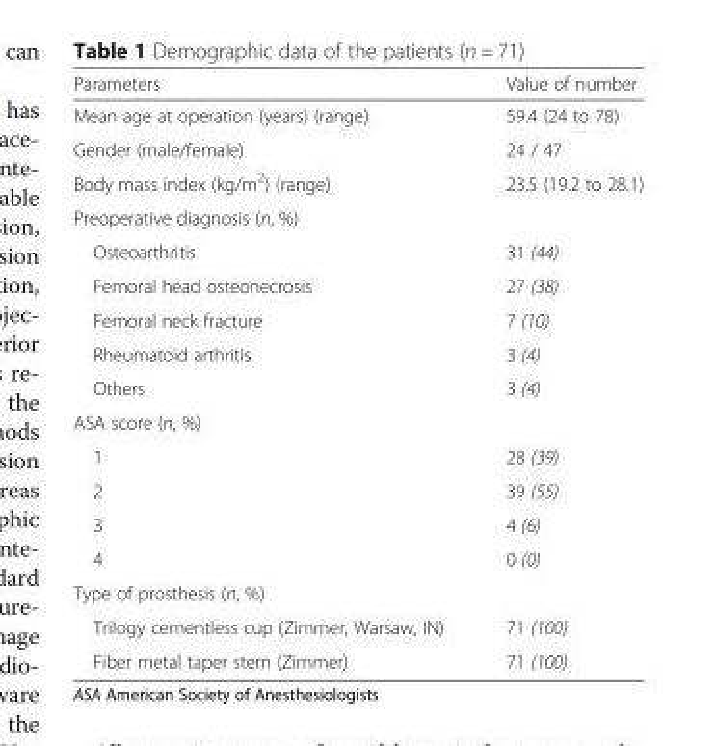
<table><thead><tr><td>Parameters</td><td>Value of number</td></tr></thead><tbody><tr><td>Mean age at operation (years) (range)</td><td>59.4 (24 to 78)</td></tr><tr><td>Gender (male/female)</td><td>24 / 47</td></tr><tr><td>Body mass index (kg/m<sup>2</sup>) (range)</td><td>23.5 (19.2 to 28.1)</td></tr><tr><td colspan="2">Preoperative diagnosis (n, %)</td></tr><tr><td>Osteoarthritis</td><td>31 (44)</td></tr><tr><td>Femoral head osteonecrosis</td><td>27 (38)</td></tr><tr><td>Femoral neck fracture</td><td>7 (10)</td></tr><tr><td>Rheumatoid arthritis</td><td>3 (4)</td></tr><tr><td>Others</td><td>3 (4)</td></tr><tr><td colspan="2">ASA score (n, %)</td></tr><tr><td>1</td><td>28 (39)</td></tr><tr><td>2</td><td>39 (55)</td></tr><tr><td>3</td><td>4 (6)</td></tr><tr><td>4</td><td>0 (0)</td></tr><tr><td colspan="2">Type of prosthesis (n, %)</td></tr><tr><td>Trilogy cementless cup (Zimmer, Warsaw, IN)</td><td>71 (100)</td></tr><tr><td>Fiber metal taper stem (Zimmer)</td><td>71 (100)</td></tr></tbody></table>